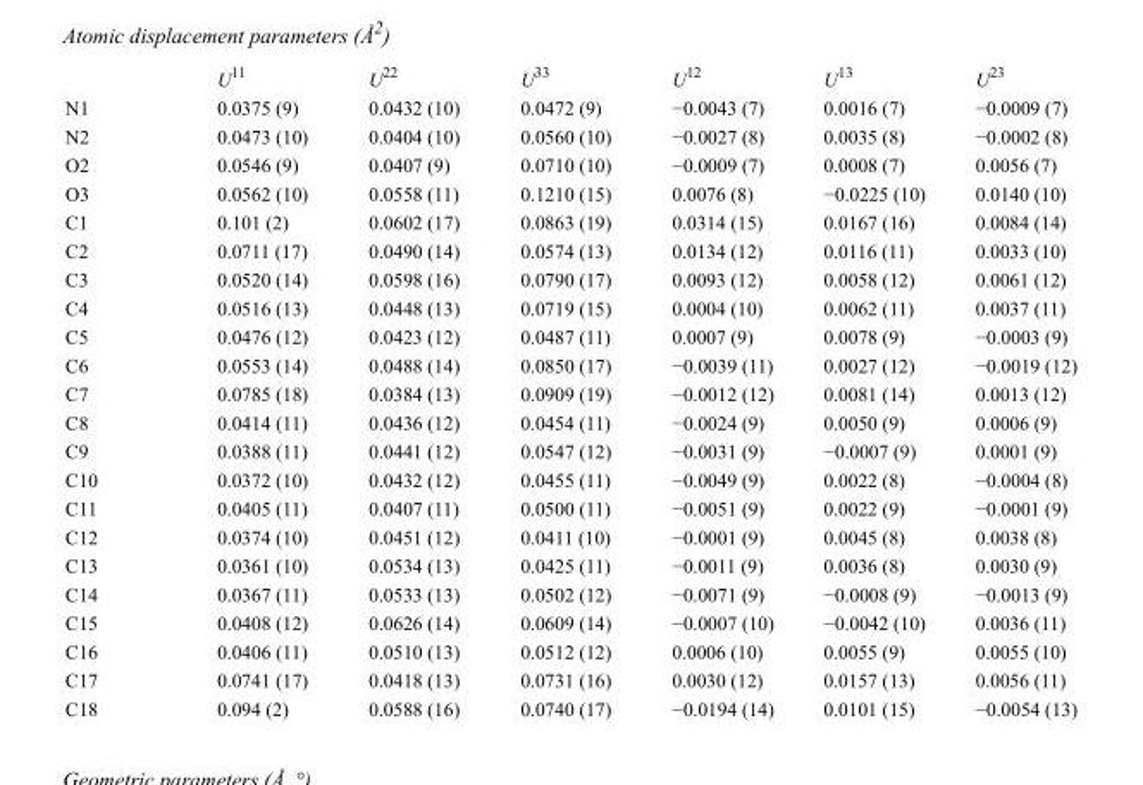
<table><thead><tr><td></td><td>U<sup>11</sup></td><td>U<sup>22</sup></td><td>U<sup>33</sup></td><td>U<sup>12</sup></td><td>U<sup>13</sup></td><td>U<sup>23</sup></td></tr></thead><tbody><tr><td>N1</td><td>0.0375 (9)</td><td>0.0432 (10)</td><td>0.0472 (9)</td><td>−0.0043 (7)</td><td>0.0016 (7)</td><td>−0.0009 (7)</td></tr><tr><td>N2</td><td>0.0473 (10)</td><td>0.0404 (10)</td><td>0.0560 (10)</td><td>−0.0027 (8)</td><td>0.0035 (8)</td><td>−0.0002 (8)</td></tr><tr><td>O2</td><td>0.0546 (9)</td><td>0.0407 (9)</td><td>0.0710 (10)</td><td>−0.0009 (7)</td><td>0.0008 (7)</td><td>0.0056 (7)</td></tr><tr><td>O3</td><td>0.0562 (10)</td><td>0.0558 (11)</td><td>0.1210 (15)</td><td>0.0076 (8)</td><td>−0.0225 (10)</td><td>0.0140 (10)</td></tr><tr><td>C1</td><td>0.101 (2)</td><td>0.0602 (17)</td><td>0.0863 (19)</td><td>0.0314 (15)</td><td>0.0167 (16)</td><td>0.0084 (14)</td></tr><tr><td>C2</td><td>0.0711 (17)</td><td>0.0490 (14)</td><td>0.0574 (13)</td><td>0.0134 (12)</td><td>0.0116 (11)</td><td>0.0033 (10)</td></tr><tr><td>C3</td><td>0.0520 (14)</td><td>0.0598 (16)</td><td>0.0790 (17)</td><td>0.0093 (12)</td><td>0.0058 (12)</td><td>0.0061 (12)</td></tr><tr><td>C4</td><td>0.0516 (13)</td><td>0.0448 (13)</td><td>0.0719 (15)</td><td>0.0004 (10)</td><td>0.0062 (11)</td><td>0.0037 (11)</td></tr><tr><td>C5</td><td>0.0476 (12)</td><td>0.0423 (12)</td><td>0.0487 (11)</td><td>0.0007 (9)</td><td>0.0078 (9)</td><td>−0.0003 (9)</td></tr><tr><td>C6</td><td>0.0553 (14)</td><td>0.0488 (14)</td><td>0.0850 (17)</td><td>−0.0039 (11)</td><td>0.0027 (12)</td><td>−0.0019 (12)</td></tr><tr><td>C7</td><td>0.0785 (18)</td><td>0.0384 (13)</td><td>0.0909 (19)</td><td>−0.0012 (12)</td><td>0.0081 (14)</td><td>0.0013 (12)</td></tr><tr><td>C8</td><td>0.0414 (11)</td><td>0.0436 (12)</td><td>0.0454 (11)</td><td>−0.0024 (9)</td><td>0.0050 (9)</td><td>0.0006 (9)</td></tr><tr><td>C9</td><td>0.0388 (11)</td><td>0.0441 (12)</td><td>0.0547 (12)</td><td>−0.0031 (9)</td><td>−0.0007 (9)</td><td>0.0001 (9)</td></tr><tr><td>C10</td><td>0.0372 (10)</td><td>0.0432 (12)</td><td>0.0455 (11)</td><td>−0.0049 (9)</td><td>0.0022 (8)</td><td>−0.0004 (8)</td></tr><tr><td>C11</td><td>0.0405 (11)</td><td>0.0407 (11)</td><td>0.0500 (11)</td><td>−0.0051 (9)</td><td>0.0022 (9)</td><td>−0.0001 (9)</td></tr><tr><td>C12</td><td>0.0374 (10)</td><td>0.0451 (12)</td><td>0.0411 (10)</td><td>−0.0001 (9)</td><td>0.0045 (8)</td><td>0.0038 (8)</td></tr><tr><td>C13</td><td>0.0361 (10)</td><td>0.0534 (13)</td><td>0.0425 (11)</td><td>−0.0011 (9)</td><td>0.0036 (8)</td><td>0.0030 (9)</td></tr><tr><td>C14</td><td>0.0367 (11)</td><td>0.0533 (13)</td><td>0.0502 (12)</td><td>−0.0071 (9)</td><td>−0.0008 (9)</td><td>−0.0013 (9)</td></tr><tr><td>C15</td><td>0.0408 (12)</td><td>0.0626 (14)</td><td>0.0609 (14)</td><td>−0.0007 (10)</td><td>−0.0042 (10)</td><td>0.0036 (11)</td></tr><tr><td>C16</td><td>0.0406 (11)</td><td>0.0510 (13)</td><td>0.0512 (12)</td><td>0.0006 (10)</td><td>0.0055 (9)</td><td>0.0055 (10)</td></tr><tr><td>C17</td><td>0.0741 (17)</td><td>0.0418 (13)</td><td>0.0731 (16)</td><td>0.0030 (12)</td><td>0.0157 (13)</td><td>0.0056 (11)</td></tr><tr><td>C18</td><td>0.094 (2)</td><td>0.0588 (16)</td><td>0.0740 (17)</td><td>−0.0194 (14)</td><td>0.0101 (15)</td><td>−0.0054 (13)</td></tr></tbody></table>